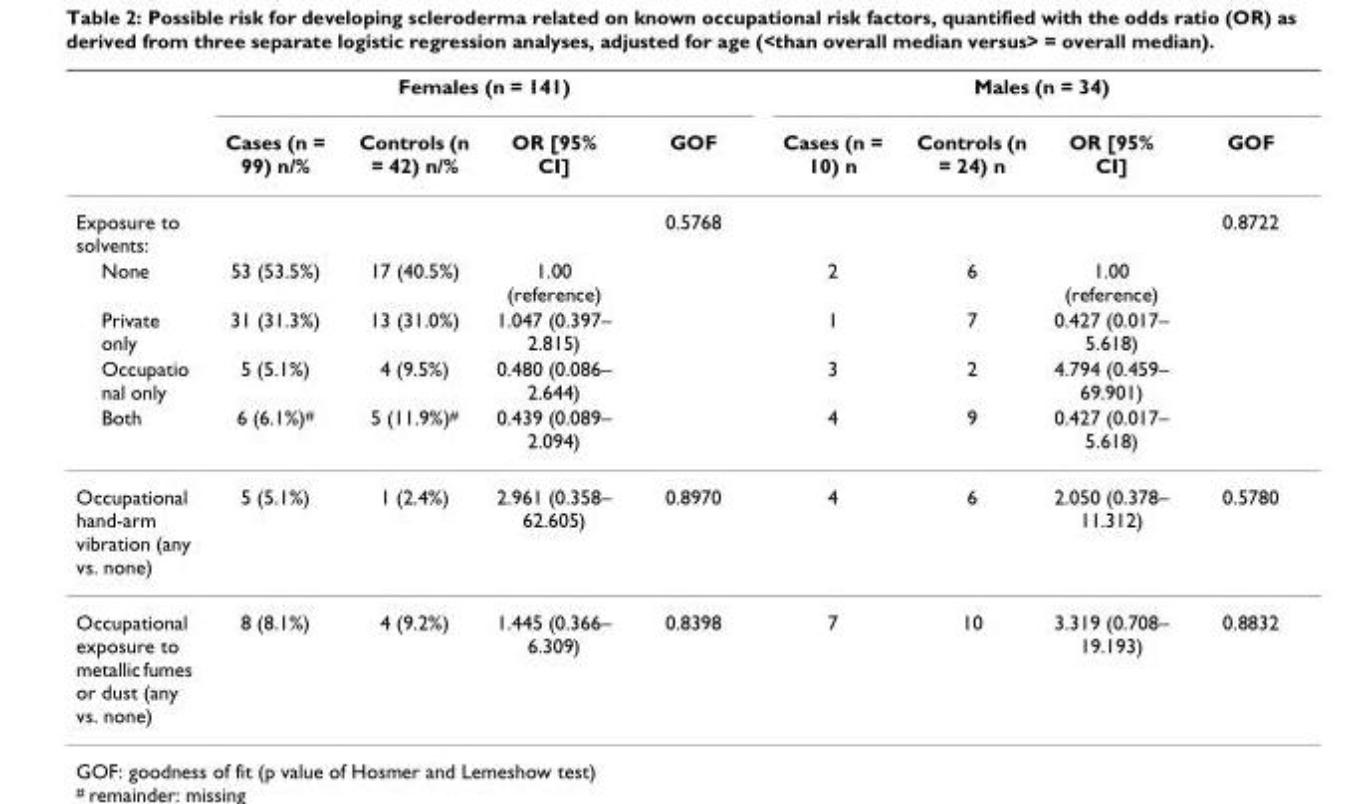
<table><thead><tr><td rowspan="2"></td><td colspan="4">Females (n = 141)</td><td colspan="4">Males (n = 34)</td></tr><tr><td>Cases (n = 99) n/%</td><td>Controls (n = 42) n/%</td><td>OR [95% CI]</td><td>GOF</td><td>Cases (n = 10) n</td><td>Controls (n = 24) n</td><td>OR [95% CI]</td><td>GOF</td></tr></thead><tbody><tr><td>Exposure to solvents:</td><td></td><td></td><td></td><td>0.5768</td><td></td><td></td><td></td><td>0.8722</td></tr><tr><td>None</td><td>53 (53.5%)</td><td>17 (40.5%)</td><td>1.00 (reference)</td><td></td><td>2</td><td>6</td><td>1.00 (reference)</td><td></td></tr><tr><td>Private only</td><td>31 (31.3%)</td><td>13 (31.0%)</td><td>1.047 (0.397– 2.815)</td><td></td><td>1</td><td>7</td><td>0.427 (0.017– 5.618)</td><td></td></tr><tr><td>Occupatio nal only</td><td>5 (5.1%)</td><td>4 (9.5%)</td><td>0.480 (0.086– 2.644)</td><td></td><td>3</td><td>2</td><td>4.794 (0.459– 69.901)</td><td></td></tr><tr><td>Both</td><td>6 (6.1%)<sup>#</sup></td><td>5 (11.9%)<sup>#</sup></td><td>0.439 (0.089– 2.094)</td><td></td><td>4</td><td>9</td><td>0.427 (0.017– 5.618)</td><td></td></tr><tr><td>Occupational hand-arm vibration (any vs. none)</td><td>5 (5.1%)</td><td>1 (2.4%)</td><td>2.961 (0.358– 62.605)</td><td>0.8970</td><td>4</td><td>6</td><td>2.050 (0.378– 11.312)</td><td>0.5780</td></tr><tr><td>Occupational exposure to metallic fumes or dust (any vs. none)</td><td>8 (8.1%)</td><td>4 (9.2%)</td><td>1.445 (0.366– 6.309)</td><td>0.8398</td><td>7</td><td>10</td><td>3.319 (0.708– 19.193)</td><td>0.8832</td></tr></tbody></table>